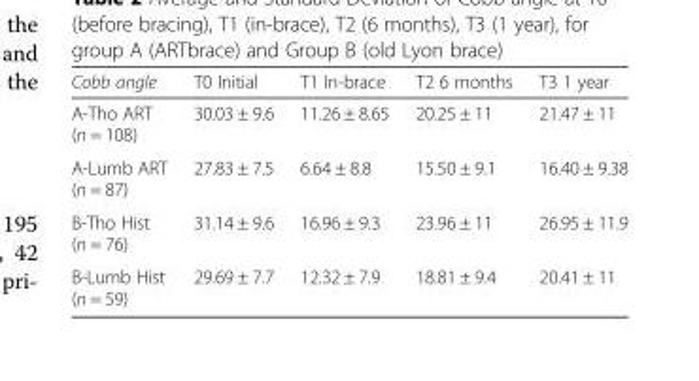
<table><thead><tr><td>Cobb angle</td><td>T0 Initial</td><td>T1 In-brace</td><td>T2 6 months</td><td>T3 1 year</td></tr></thead><tbody><tr><td>A-Tho ART (n = 108)</td><td>30.03 ± 9.6</td><td>11.26 ± 8.65</td><td>20.25 ± 11</td><td>21.47 ± 11</td></tr><tr><td>A-Lumb ART (n = 87)</td><td>27.83 ± 7.5</td><td>6.64 ± 8.8</td><td>15.50 ± 9.1</td><td>16.40 ± 9.38</td></tr><tr><td>B-Tho Hist (n = 76)</td><td>31.14 ± 9.6</td><td>16.96 ± 9.3</td><td>23.96 ± 11</td><td>26.95 ± 11.9</td></tr><tr><td>B-Lumb Hist (n = 59)</td><td>29.69 ± 7.7</td><td>12.32 ± 7.9</td><td>18.81 ± 9.4</td><td>20.41 ± 11</td></tr></tbody></table>